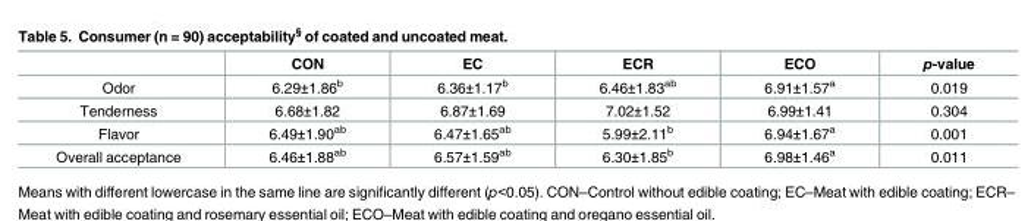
<table><thead><tr><td></td><td>CON</td><td>EC</td><td>ECR</td><td>ECO</td><td>p-value</td></tr></thead><tbody><tr><td>Odor</td><td>6.29±1.86<sup>b</sup></td><td>6.36±1.17<sup>b</sup></td><td>6.46±1.83<sup>ab</sup></td><td>6.91±1.57<sup>a</sup></td><td>0.019</td></tr><tr><td>Tenderness</td><td>6.68±1.82</td><td>6.87±1.69</td><td>7.02±1.52</td><td>6.99±1.41</td><td>0.304</td></tr><tr><td>Flavor</td><td>6.49±1.90<sup>ab</sup></td><td>6.47±1.65<sup>ab</sup></td><td>5.99±2.11<sup>b</sup></td><td>6.94±1.67<sup>a</sup></td><td>0.001</td></tr><tr><td>Overall acceptance</td><td>6.46±1.88<sup>ab</sup></td><td>6.57±1.59<sup>ab</sup></td><td>6.30±1.85<sup>b</sup></td><td>6.98±1.46<sup>a</sup></td><td>0.011</td></tr></tbody></table>